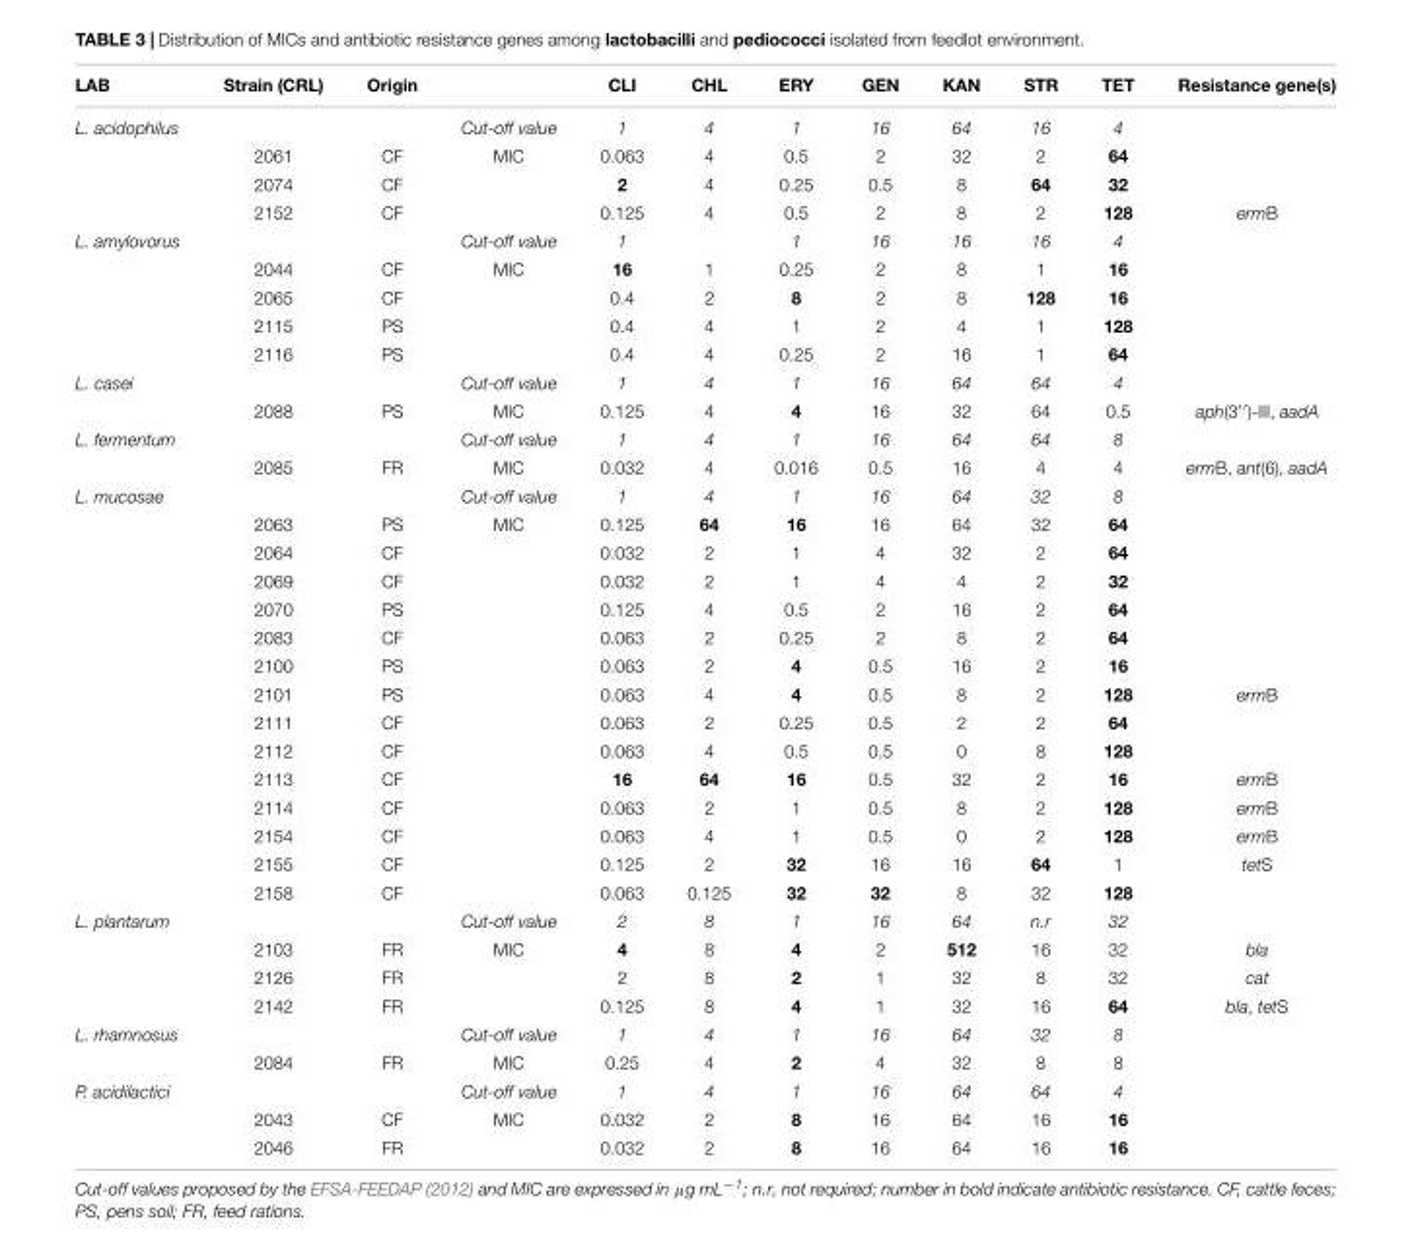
<table><thead><tr><td>LAB</td><td>Strain (CRL)</td><td>Origin</td><td></td><td>CLI</td><td>CHL</td><td>ERY</td><td>GEN</td><td>KAN</td><td>STR</td><td>TET</td><td>Resistance gene(s)</td></tr></thead><tbody><tr><td rowspan="4">L. acidophilus</td><td></td><td></td><td>Cut-off value</td><td>1</td><td>4</td><td>1</td><td>16</td><td>64</td><td>16</td><td>4</td><td></td></tr><tr><td>2061</td><td>CF</td><td>MIC</td><td>0.063</td><td>4</td><td>0.5</td><td>2</td><td>32</td><td>2</td><td>64</td><td></td></tr><tr><td>2074</td><td>CF</td><td></td><td>2</td><td>4</td><td>0.25</td><td>0.5</td><td>8</td><td>64</td><td>32</td><td></td></tr><tr><td>2152</td><td>CF</td><td></td><td>0.125</td><td>4</td><td>0.5</td><td>2</td><td>8</td><td>2</td><td>128</td><td>ermB</td></tr><tr><td rowspan="5">L. amylovorus</td><td></td><td></td><td>Cut-off value</td><td>1</td><td></td><td>1</td><td>16</td><td>16</td><td>16</td><td>4</td><td></td></tr><tr><td>2044</td><td>CF</td><td>MIC</td><td>16</td><td>1</td><td>0.25</td><td>2</td><td>8</td><td>1</td><td>16</td><td></td></tr><tr><td>2065</td><td>CF</td><td></td><td>0.4</td><td>2</td><td>8</td><td>2</td><td>8</td><td>128</td><td>16</td><td></td></tr><tr><td>2115</td><td>PS</td><td></td><td>0.4</td><td>4</td><td>1</td><td>2</td><td>4</td><td>1</td><td>128</td><td></td></tr><tr><td>2116</td><td>PS</td><td></td><td>0.4</td><td>4</td><td>0.25</td><td>2</td><td>16</td><td>1</td><td>64</td><td></td></tr><tr><td rowspan="2">L. casei</td><td></td><td></td><td>Cut-off value</td><td>1</td><td>4</td><td>1</td><td>16</td><td>64</td><td>64</td><td>4</td><td></td></tr><tr><td>2088</td><td>PS</td><td>MIC</td><td>0.125</td><td>4</td><td>4</td><td>16</td><td>32</td><td>64</td><td>0.5</td><td>aph(3′′)-III, aadA</td></tr><tr><td rowspan="2">L. fermentum</td><td></td><td></td><td>Cut-off value</td><td>1</td><td>4</td><td>1</td><td>16</td><td>64</td><td>64</td><td>8</td><td></td></tr><tr><td>2085</td><td>FR</td><td>MIC</td><td>0.032</td><td>4</td><td>0.016</td><td>0.5</td><td>16</td><td>4</td><td>4</td><td>ermB, ant(6), aadA</td></tr><tr><td rowspan="15">L. mucosae</td><td></td><td></td><td>Cut-off value</td><td>1</td><td>4</td><td>1</td><td>16</td><td>64</td><td>32</td><td>8</td><td></td></tr><tr><td>2063</td><td>PS</td><td>MIC</td><td>0.125</td><td>64</td><td>16</td><td>16</td><td>64</td><td>32</td><td>64</td><td></td></tr><tr><td>2064</td><td>CF</td><td></td><td>0.032</td><td>2</td><td>1</td><td>4</td><td>32</td><td>2</td><td>64</td><td></td></tr><tr><td>2069</td><td>CF</td><td></td><td>0.032</td><td>2</td><td>1</td><td>4</td><td>4</td><td>2</td><td>32</td><td></td></tr><tr><td>2070</td><td>PS</td><td></td><td>0.125</td><td>4</td><td>0.5</td><td>2</td><td>16</td><td>2</td><td>64</td><td></td></tr><tr><td>2083</td><td>CF</td><td></td><td>0.063</td><td>2</td><td>0.25</td><td>2</td><td>8</td><td>2</td><td>64</td><td></td></tr><tr><td>2100</td><td>PS</td><td></td><td>0.063</td><td>2</td><td>4</td><td>0.5</td><td>16</td><td>2</td><td>16</td><td></td></tr><tr><td>2101</td><td>PS</td><td></td><td>0.063</td><td>4</td><td>4</td><td>0.5</td><td>8</td><td>2</td><td>128</td><td>ermB</td></tr><tr><td>2111</td><td>CF</td><td></td><td>0.063</td><td>2</td><td>0.25</td><td>0.5</td><td>2</td><td>2</td><td>64</td><td></td></tr><tr><td>2112</td><td>CF</td><td></td><td>0.063</td><td>4</td><td>0.5</td><td>0.5</td><td>0</td><td>8</td><td>128</td><td></td></tr><tr><td>2113</td><td>CF</td><td></td><td>16</td><td>64</td><td>16</td><td>0.5</td><td>32</td><td>2</td><td>16</td><td>ermB</td></tr><tr><td>2114</td><td>CF</td><td></td><td>0.063</td><td>2</td><td>1</td><td>0.5</td><td>8</td><td>2</td><td>128</td><td>ermB</td></tr><tr><td>2154</td><td>CF</td><td></td><td>0.063</td><td>4</td><td>1</td><td>0.5</td><td>0</td><td>2</td><td>128</td><td>ermB</td></tr><tr><td>2155</td><td>CF</td><td></td><td>0.125</td><td>2</td><td>32</td><td>16</td><td>16</td><td>64</td><td>1</td><td>tetS</td></tr><tr><td>2158</td><td>CF</td><td></td><td>0.063</td><td>0.125</td><td>32</td><td>32</td><td>8</td><td>32</td><td>128</td><td></td></tr><tr><td rowspan="4">L. plantarum</td><td></td><td></td><td>Cut-off value</td><td>2</td><td>8</td><td>1</td><td>16</td><td>64</td><td>n.r</td><td>32</td><td></td></tr><tr><td>2103</td><td>FR</td><td>MIC</td><td>4</td><td>8</td><td>4</td><td>2</td><td>512</td><td>16</td><td>32</td><td>bla</td></tr><tr><td>2126</td><td>FR</td><td></td><td>2</td><td>8</td><td>2</td><td>1</td><td>32</td><td>8</td><td>32</td><td>cat</td></tr><tr><td>2142</td><td>FR</td><td></td><td>0.125</td><td>8</td><td>4</td><td>1</td><td>32</td><td>16</td><td>64</td><td>bla, tetS</td></tr><tr><td rowspan="2">L. rhamnosus</td><td></td><td></td><td>Cut-off value</td><td>1</td><td>4</td><td>1</td><td>16</td><td>64</td><td>32</td><td>8</td><td></td></tr><tr><td>2084</td><td>FR</td><td>MIC</td><td>0.25</td><td>4</td><td>2</td><td>4</td><td>32</td><td>8</td><td>8</td><td></td></tr><tr><td rowspan="3">P. acidilactici</td><td></td><td></td><td>Cut-off value</td><td>1</td><td>4</td><td>1</td><td>16</td><td>64</td><td>64</td><td>4</td><td></td></tr><tr><td>2043</td><td>CF</td><td>MIC</td><td>0.032</td><td>2</td><td>8</td><td>16</td><td>64</td><td>16</td><td>16</td><td></td></tr><tr><td>2046</td><td>FR</td><td></td><td>0.032</td><td>2</td><td>8</td><td>16</td><td>64</td><td>16</td><td>16</td><td></td></tr></tbody></table>